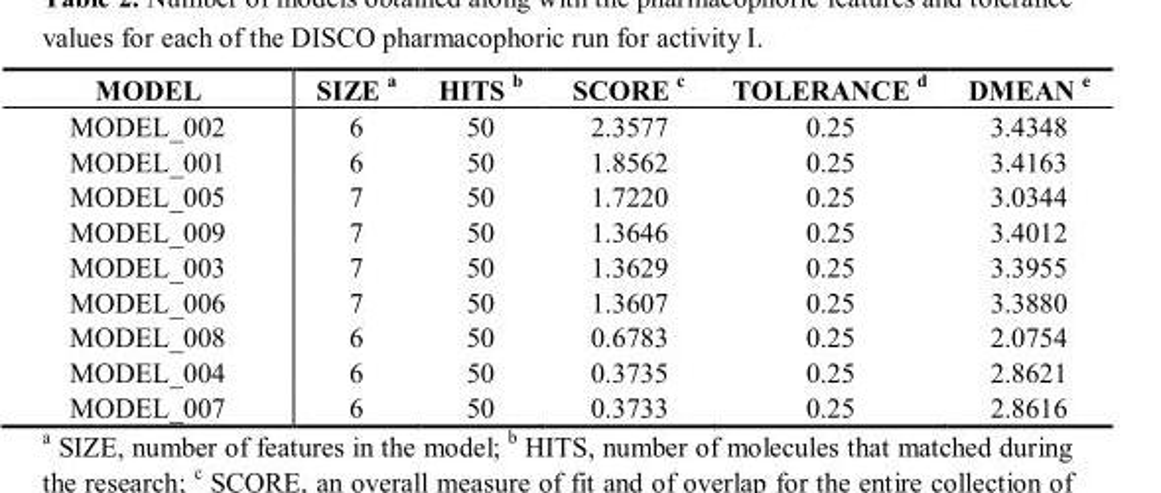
<table><thead><tr><td>MODEL</td><td>SIZE a</td><td>HITS b</td><td>SCORE c</td><td>TOLERANCE d</td><td>DMEAN e</td></tr></thead><tbody><tr><td>MODEL_002</td><td>6</td><td>50</td><td>2.3577</td><td>0.25</td><td>3.4348</td></tr><tr><td>MODEL_001</td><td>6</td><td>50</td><td>1.8562</td><td>0.25</td><td>3.4163</td></tr><tr><td>MODEL_005</td><td>7</td><td>50</td><td>1.7220</td><td>0.25</td><td>3.0344</td></tr><tr><td>MODEL_009</td><td>7</td><td>50</td><td>1.3646</td><td>0.25</td><td>3.4012</td></tr><tr><td>MODEL_003</td><td>7</td><td>50</td><td>1.3629</td><td>0.25</td><td>3.3955</td></tr><tr><td>MODEL_006</td><td>7</td><td>50</td><td>1.3607</td><td>0.25</td><td>3.3880</td></tr><tr><td>MODEL_008</td><td>6</td><td>50</td><td>0.6783</td><td>0.25</td><td>2.0754</td></tr><tr><td>MODEL_004</td><td>6</td><td>50</td><td>0.3735</td><td>0.25</td><td>2.8621</td></tr><tr><td>MODEL_007</td><td>6</td><td>50</td><td>0.3733</td><td>0.25</td><td>2.8616</td></tr></tbody></table>